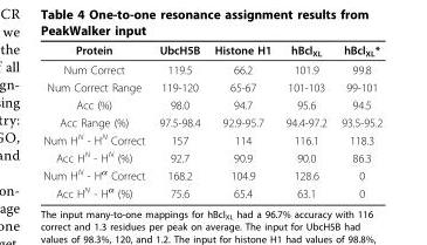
<table><thead><tr><td>Protein</td><td>UbcH5B</td><td>Histone H1</td><td>hBcl<sub>XL</sub></td><td>hBcl<sub>XL</sub>*</td></tr></thead><tbody><tr><td>Num Correct</td><td>119.5</td><td>66.2</td><td>101.9</td><td>99.8</td></tr><tr><td>Num Correct Range</td><td>119-120</td><td>65-67</td><td>101-103</td><td>99-101</td></tr><tr><td>Acc (%)</td><td>98.0</td><td>94.7</td><td>95.6</td><td>94.5</td></tr><tr><td>Acc Range (%)</td><td>97.5-98.4</td><td>92.9-95.7</td><td>94.4-97.2</td><td>93.5-95.2</td></tr><tr><td>Num H<sup>N</sup> - H<sup>N</sup> Correct</td><td>157</td><td>114</td><td>116.1</td><td>118.3</td></tr><tr><td>Acc H<sup>N</sup> - H<sup>N</sup> (%)</td><td>92.7</td><td>90.9</td><td>90.0</td><td>86.3</td></tr><tr><td>Num H<sup>N</sup> - H<sup>α</sup> Correct</td><td>168.2</td><td>104.9</td><td>128.6</td><td>0</td></tr><tr><td>Acc H<sup>N</sup> - H<sup>α</sup> (%)</td><td>75.6</td><td>65.4</td><td>63.1</td><td>0</td></tr></tbody></table>